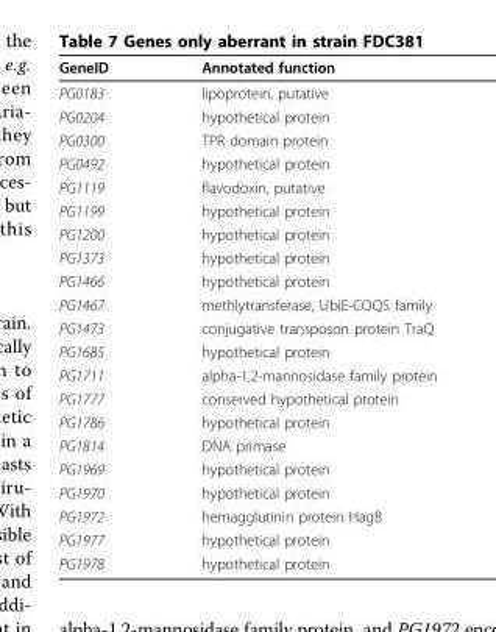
<table><thead><tr><td>GeneID</td><td>Annotated function</td></tr></thead><tbody><tr><td>PG0183</td><td>lipoprotein, putative</td></tr><tr><td>PG0204</td><td>hypothetical protein</td></tr><tr><td>PG0300</td><td>TPR domain protein</td></tr><tr><td>PG0492</td><td>hypothetical protein</td></tr><tr><td>PG1119</td><td>flavodoxin, putative</td></tr><tr><td>PG1199</td><td>hypothetical protein</td></tr><tr><td>PG1200</td><td>hypothetical protein</td></tr><tr><td>PG1373</td><td>hypothetical protein</td></tr><tr><td>PG1466</td><td>hypothetical protein</td></tr><tr><td>PG1467</td><td>methlytransferase, UbiE-COQ5 family</td></tr><tr><td>PG1473</td><td>conjugative transposon protein TraQ</td></tr><tr><td>PG1685</td><td>hypothetical protein</td></tr><tr><td>PG1711</td><td>alpha-1,2-mannosidase family protein</td></tr><tr><td>PG1777</td><td>conserved hypothetical protein</td></tr><tr><td>PG1786</td><td>hypothetical protein</td></tr><tr><td>PG1814</td><td>DNA primase</td></tr><tr><td>PG1969</td><td>hypothetical protein</td></tr><tr><td>PG1970</td><td>hypothetical protein</td></tr><tr><td>PG1972</td><td>hemagglutinin protein HagB</td></tr><tr><td>PG1977</td><td>hypothetical protein</td></tr><tr><td>PG1978</td><td>hypothetical protein</td></tr></tbody></table>